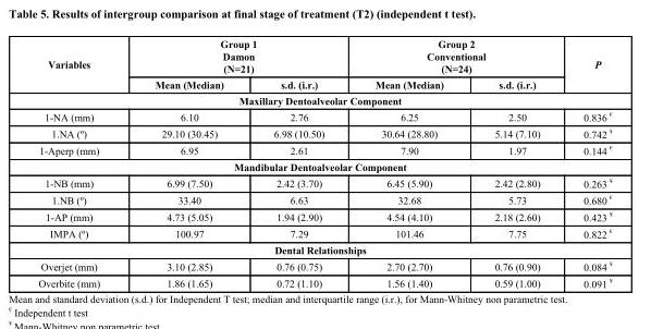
<table><thead><tr><td rowspan="2">Variables</td><td colspan="2">Group 1 Damon (N=21)</td><td colspan="2">Group 2 Conventional (N=24)</td><td rowspan="2">P</td></tr><tr><td>Mean (Median)</td><td>s.d. (i.r.)</td><td>Mean (Median)</td><td>s.d. (i.r.)</td></tr></thead><tbody><tr><td colspan="6">Maxillary Dentoalveolar Component</td></tr><tr><td>1-NA (mm)</td><td>6.10</td><td>2.76</td><td>6.25</td><td>2.50</td><td>0.836 <sup>€</sup></td></tr><tr><td>1.NA (º)</td><td>29.10 (30.45)</td><td>6.98 (10.50)</td><td>30.64 (28.80)</td><td>5.14 (7.10)</td><td>0.742 <sup>¥</sup></td></tr><tr><td>1-Aperp (mm)</td><td>6.95</td><td>2.61</td><td>7.90</td><td>1.97</td><td>0.144 <sup>€</sup></td></tr><tr><td colspan="6">Mandibular Dentoalveolar Component</td></tr><tr><td>1-NB (mm)</td><td>6.99 (7.50)</td><td>2.42 (3.70)</td><td>6.45 (5.90)</td><td>2.42 (2.80)</td><td>0.263 <sup>¥</sup></td></tr><tr><td>1.NB (º)</td><td>33.40</td><td>6.63</td><td>32.68</td><td>5.73</td><td>0.680 <sup>€</sup></td></tr><tr><td>1-AP (mm)</td><td>4.73 (5.05)</td><td>1.94 (2.90)</td><td>4.54 (4.10)</td><td>2.18 (2.60)</td><td>0.423 <sup>¥</sup></td></tr><tr><td>IMPA (º)</td><td>100.97</td><td>7.29</td><td>101.46</td><td>7.75</td><td>0.822 <sup>€</sup></td></tr><tr><td colspan="6">Dental Relationships</td></tr><tr><td>Overjet (mm)</td><td>3.10 (2.85)</td><td>0.76 (0.75)</td><td>2.70 (2.70)</td><td>0.76 (0.90)</td><td>0.084 <sup>¥</sup></td></tr><tr><td>Overbite (mm)</td><td>1.86 (1.65)</td><td>0.72 (1.10)</td><td>1.56 (1.40)</td><td>0.59 (1.00)</td><td>0.091 <sup>¥</sup></td></tr></tbody></table>